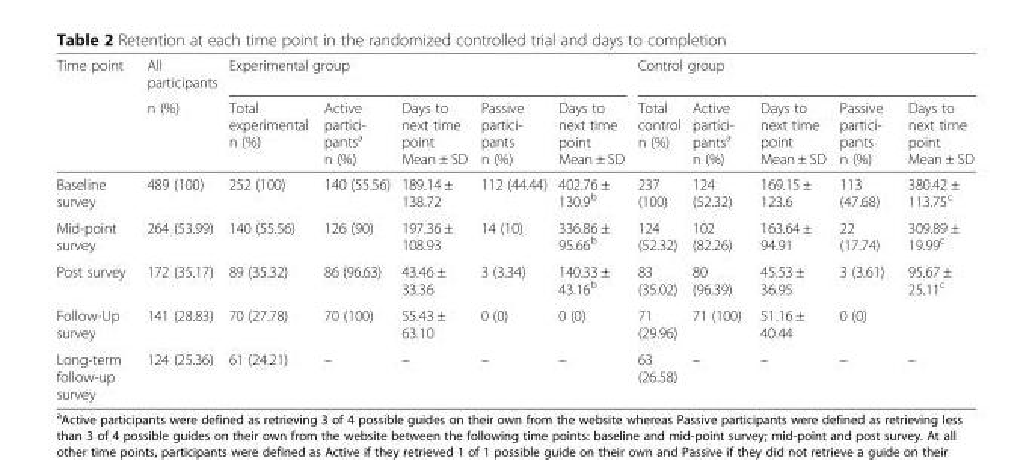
<table><thead><tr><td rowspan="2">Time point</td><td rowspan="2">All participants n (%)</td><td colspan="5">Experimental group</td><td colspan="5">Control group</td></tr><tr><td>Total experimental n (%)</td><td>Active partici- pants<sup>a</sup> n (%)</td><td>Days to next time point Mean ± SD</td><td>Passive partici- pants n (%)</td><td>Days to next time point Mean ± SD</td><td>Total control n (%)</td><td>Active partici- pants<sup>a</sup> n (%)</td><td>Days to next time point Mean ± SD</td><td>Passive partici- pants n (%)</td><td>Days to next time point Mean ± SD</td></tr></thead><tbody><tr><td>Baseline survey</td><td>489 (100)</td><td>252 (100)</td><td>140 (55.56)</td><td>189.14 ± 138.72</td><td>112 (44.44)</td><td>402.76 ± 130.9<sup>b</sup></td><td>237 (100)</td><td>124 (52.32)</td><td>169.15 ± 123.6</td><td>113 (47.68)</td><td>380.42 ± 113.75<sup>c</sup></td></tr><tr><td>Mid-point survey</td><td>264 (53.99)</td><td>140 (55.56)</td><td>126 (90)</td><td>197.36 ± 108.93</td><td>14 (10)</td><td>336.86 ± 95.66<sup>b</sup></td><td>124 (52.32)</td><td>102 (82.26)</td><td>163.64 ± 94.91</td><td>22 (17.74)</td><td>309.89 ± 19.99<sup>c</sup></td></tr><tr><td>Post survey</td><td>172 (35.17)</td><td>89 (35.32)</td><td>86 (96.63)</td><td>43.46 ± 33.36</td><td>3 (3.34)</td><td>140.33 ± 43.16<sup>b</sup></td><td>83 (35.02)</td><td>80 (96.39)</td><td>45.53 ± 36.95</td><td>3 (3.61)</td><td>95.67 ± 25.11<sup>c</sup></td></tr><tr><td>Follow-Up survey</td><td>141 (28.83)</td><td>70 (27.78)</td><td>70 (100)</td><td>55.43 ± 63.10</td><td>0 (0)</td><td>0 (0)</td><td>71 (29.96)</td><td>71 (100)</td><td>51.16 ± 40.44</td><td>0 (0)</td><td></td></tr><tr><td>Long-term follow-up survey</td><td>124 (25.36)</td><td>61 (24.21)</td><td>–</td><td>–</td><td>–</td><td>–</td><td>63 (26.58)</td><td>–</td><td>–</td><td>–</td><td>–</td></tr></tbody></table>